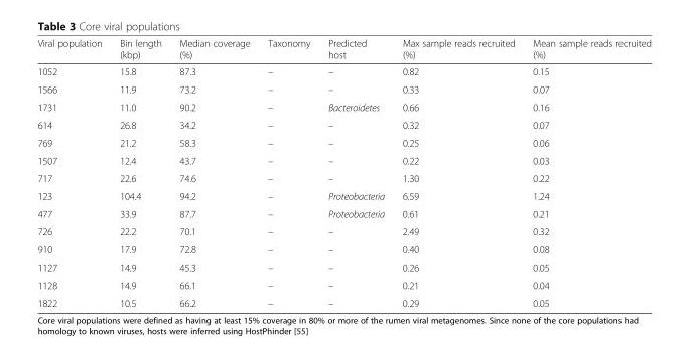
<table><thead><tr><td>Viral population</td><td>Bin length (kbp)</td><td>Median coverage (%)</td><td>Taxonomy</td><td>Predicted host</td><td>Max sample reads recruited (%)</td><td>Mean sample reads recruited (%)</td></tr></thead><tbody><tr><td>1052</td><td>15.8</td><td>87.3</td><td>–</td><td>–</td><td>0.82</td><td>0.15</td></tr><tr><td>1566</td><td>11.9</td><td>73.2</td><td>–</td><td>–</td><td>0.33</td><td>0.07</td></tr><tr><td>1731</td><td>11.0</td><td>90.2</td><td>–</td><td>Bacteroidetes</td><td>0.66</td><td>0.16</td></tr><tr><td>614</td><td>26.8</td><td>34.2</td><td>–</td><td>–</td><td>0.32</td><td>0.07</td></tr><tr><td>769</td><td>21.2</td><td>58.3</td><td>–</td><td>–</td><td>0.25</td><td>0.06</td></tr><tr><td>1507</td><td>12.4</td><td>43.7</td><td>–</td><td>–</td><td>0.22</td><td>0.03</td></tr><tr><td>717</td><td>22.6</td><td>74.6</td><td>–</td><td>–</td><td>1.30</td><td>0.22</td></tr><tr><td>123</td><td>104.4</td><td>94.2</td><td>–</td><td>Proteobacteria</td><td>6.59</td><td>1.24</td></tr><tr><td>477</td><td>33.9</td><td>87.7</td><td>–</td><td>Proteobacteria</td><td>0.61</td><td>0.21</td></tr><tr><td>726</td><td>22.2</td><td>70.1</td><td>–</td><td>–</td><td>2.49</td><td>0.32</td></tr><tr><td>910</td><td>17.9</td><td>72.8</td><td>–</td><td>–</td><td>0.40</td><td>0.08</td></tr><tr><td>1127</td><td>14.9</td><td>45.3</td><td>–</td><td>–</td><td>0.26</td><td>0.05</td></tr><tr><td>1128</td><td>14.9</td><td>66.1</td><td>–</td><td>–</td><td>0.21</td><td>0.04</td></tr><tr><td>1822</td><td>10.5</td><td>66.2</td><td>–</td><td>–</td><td>0.29</td><td>0.05</td></tr></tbody></table>